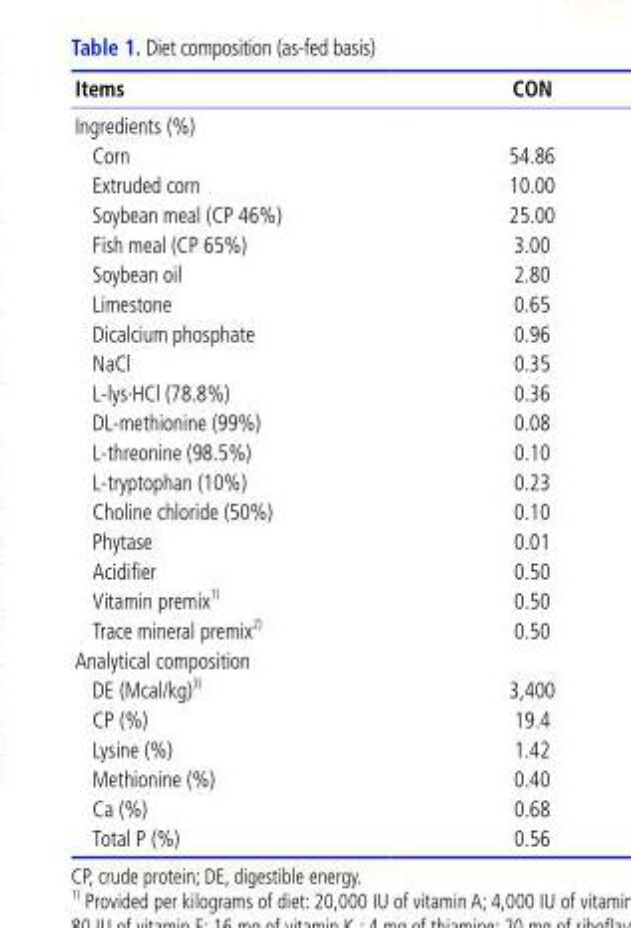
<table><thead><tr><td>Items</td><td>CON</td></tr></thead><tbody><tr><td colspan="2">Ingredients (%)</td></tr><tr><td>Corn</td><td>54.86</td></tr><tr><td>Extruded corn</td><td>10.00</td></tr><tr><td>Soybean meal (CP 46%)</td><td>25.00</td></tr><tr><td>Fish meal (CP 65%)</td><td>3.00</td></tr><tr><td>Soybean oil</td><td>2.80</td></tr><tr><td>Limestone</td><td>0.65</td></tr><tr><td>Dicalcium phosphate</td><td>0.96</td></tr><tr><td>NaCl</td><td>0.35</td></tr><tr><td>L-lys∙HCl (78.8%)</td><td>0.36</td></tr><tr><td>DL-methionine (99%)</td><td>0.08</td></tr><tr><td>L-threonine (98.5%)</td><td>0.10</td></tr><tr><td>L-tryptophan (10%)</td><td>0.23</td></tr><tr><td>Choline chloride (50%)</td><td>0.10</td></tr><tr><td>Phytase</td><td>0.01</td></tr><tr><td>Acidifier</td><td>0.50</td></tr><tr><td>Vitamin premix 1)</td><td>0.50</td></tr><tr><td>Trace mineral premix 2)</td><td>0.50</td></tr><tr><td colspan="2">Analytical composition</td></tr><tr><td>DE (Mcal/kg) 3)</td><td>3,400</td></tr><tr><td>CP (%)</td><td>19.4</td></tr><tr><td>Lysine (%)</td><td>1.42</td></tr><tr><td>Methionine (%)</td><td>0.40</td></tr><tr><td>Ca (%)</td><td>0.68</td></tr><tr><td>Total P (%)</td><td>0.56</td></tr></tbody></table>